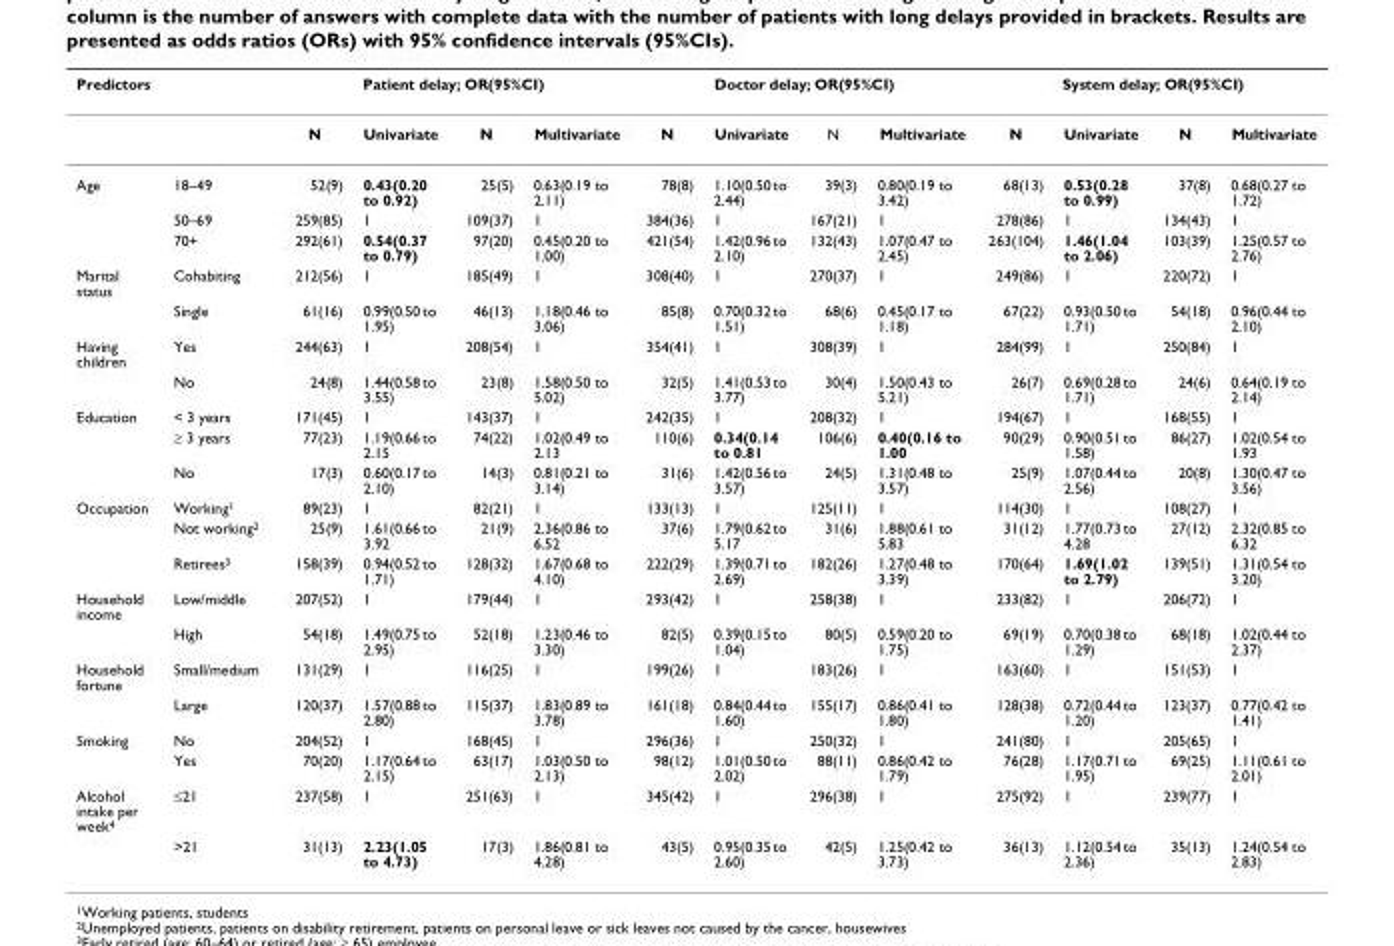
<table><thead><tr><td colspan="2">Predictors</td><td colspan="4">Patient delay; OR(95%CI)</td><td colspan="4">Doctor delay; OR(95%CI)</td><td colspan="4">System delay; OR(95%CI)</td></tr><tr><td></td><td></td><td>N</td><td>Univariate</td><td>N</td><td>Multivariate</td><td>N</td><td>Univariate</td><td>N</td><td>Multivariate</td><td>N</td><td>Univariate</td><td>N</td><td>Multivariate</td></tr></thead><tbody><tr><td rowspan="3">Age</td><td>18–49</td><td>52(9)</td><td>0.43(0.20 to 0.92)</td><td>25(5)</td><td>0.63(0.19 to 2.11)</td><td>78(8)</td><td>1.10(0.50 to 2.44)</td><td>39(3)</td><td>0.80(0.19 to 3.42)</td><td>68(13)</td><td>0.53(0.28 to 0.99)</td><td>37(8)</td><td>0.68(0.27 to 1.72)</td></tr><tr><td>50–69</td><td>259(85)</td><td>1</td><td>109(37)</td><td>1</td><td>384(36)</td><td>1</td><td>167(21)</td><td>1</td><td>278(86)</td><td>1</td><td>134(43)</td><td>1</td></tr><tr><td>70+</td><td>292(61)</td><td>0.54(0.37 to 0.79)</td><td>97(20)</td><td>0.45(0.20 to 1.00)</td><td>421(54)</td><td>1.42(0.96 to 2.10)</td><td>132(43)</td><td>1.07(0.47 to 2.45)</td><td>263(104)</td><td>1.46(1.04 to 2.06)</td><td>103(39)</td><td>1.25(0.57 to 2.76)</td></tr><tr><td rowspan="2">Marital status</td><td>Cohabiting</td><td>212(56)</td><td>1</td><td>185(49)</td><td>1</td><td>308(40)</td><td>1</td><td>270(37)</td><td>1</td><td>249(86)</td><td>1</td><td>220(72)</td><td>1</td></tr><tr><td>Single</td><td>61(16)</td><td>0.99(0.50 to 1.95)</td><td>46(13)</td><td>1.18(0.46 to 3.06)</td><td>85(8)</td><td>0.70(0.32 to 1.51)</td><td>68(6)</td><td>0.45(0.17 to 1.18)</td><td>67(22)</td><td>0.93(0.50 to 1.71)</td><td>54(18)</td><td>0.96(0.44 to 2.10)</td></tr><tr><td rowspan="2">Having children</td><td>Yes</td><td>244(63)</td><td>1</td><td>208(54)</td><td>1</td><td>354(41)</td><td>1</td><td>308(39)</td><td>1</td><td>284(99)</td><td>1</td><td>250(84)</td><td>1</td></tr><tr><td>No</td><td>24(8)</td><td>1.44(0.58 to 3.55)</td><td>23(8)</td><td>1.58(0.50 to 5.02)</td><td>32(5)</td><td>1.41(0.53 to 3.77)</td><td>30(4)</td><td>1.50(0.43 to 5.21)</td><td>26(7)</td><td>0.69(0.28 to 1.71)</td><td>24(6)</td><td>0.64(0.19 to 2.14)</td></tr><tr><td rowspan="3">Education</td><td>&lt; 3 years</td><td>171(45)</td><td>1</td><td>143(37)</td><td>1</td><td>242(35)</td><td>1</td><td>208(32)</td><td>1</td><td>194(67)</td><td>1</td><td>168(55)</td><td>1</td></tr><tr><td>≥ 3 years</td><td>77(23)</td><td>1.19(0.66 to 2.15</td><td>74(22)</td><td>1.02(0.49 to 2.13</td><td>110(6)</td><td>0.34(0.14 to 0.81</td><td>106(6)</td><td>0.40(0.16 to 1.00</td><td>90(29)</td><td>0.90(0.51 to 1.58)</td><td>86(27)</td><td>1.02(0.54 to 1.93</td></tr><tr><td>No</td><td>17(3)</td><td>0.60(0.17 to 2.10)</td><td>14(3)</td><td>0.81(0.21 to 3.14)</td><td>31(6)</td><td>1.42(0.56 to 3.57)</td><td>24(5)</td><td>1.31(0.48 to 3.57)</td><td>25(9)</td><td>1.07(0.44 to 2.56)</td><td>20(8)</td><td>1.30(0.47 to 3.56)</td></tr><tr><td rowspan="3">Occupation</td><td>Working<sup>1</sup></td><td>89(23)</td><td>1</td><td>82(21)</td><td>1</td><td>133(13)</td><td>1</td><td>125(11)</td><td>1</td><td>114(30)</td><td>1</td><td>108(27)</td><td>1</td></tr><tr><td>Not working<sup>2</sup></td><td>25(9)</td><td>1.61(0.66 to 3.92</td><td>21(9)</td><td>2.36(0.86 to 6.52</td><td>37(6)</td><td>1.79(0.62 to 5.17</td><td>31(6)</td><td>1.88(0.61 to 5.83</td><td>31(12)</td><td>1.77(0.73 to 4.28</td><td>27(12)</td><td>2.32(0.85 to 6.32</td></tr><tr><td>Retirees<sup>3</sup></td><td>158(39)</td><td>0.94(0.52 to 1.71)</td><td>128(32)</td><td>1.67(0.68 to 4.10)</td><td>222(29)</td><td>1.39(0.71 to 2.69)</td><td>182(26)</td><td>1.27(0.48 to 3.39)</td><td>170(64)</td><td>1.69(1.02 to 2.79)</td><td>139(51)</td><td>1.31(0.54 to 3.20)</td></tr><tr><td rowspan="2">Household income</td><td>Low/middle</td><td>207(52)</td><td>1</td><td>179(44)</td><td>1</td><td>293(42)</td><td>1</td><td>258(38)</td><td>1</td><td>233(82)</td><td>1</td><td>206(72)</td><td>1</td></tr><tr><td>High</td><td>54(18)</td><td>1.49(0.75 to 2.95)</td><td>52(18)</td><td>1.23(0.46 to 3.30)</td><td>82(5)</td><td>0.39(0.15 to 1.04)</td><td>80(5)</td><td>0.59(0.20 to 1.75)</td><td>69(19)</td><td>0.70(0.38 to 1.29)</td><td>68(18)</td><td>1.02(0.44 to 2.37)</td></tr><tr><td rowspan="2">Household fortune</td><td>Small/medium</td><td>131(29)</td><td>1</td><td>116(25)</td><td>1</td><td>199(26)</td><td>1</td><td>183(26)</td><td>1</td><td>163(60)</td><td>1</td><td>151(53)</td><td>1</td></tr><tr><td>Large</td><td>120(37)</td><td>1.57(0.88 to 2.80)</td><td>115(37)</td><td>1.83(0.89 to 3.78)</td><td>161(18)</td><td>0.84(0.44 to 1.60)</td><td>155(17)</td><td>0.86(0.41 to 1.80)</td><td>128(38)</td><td>0.72(0.44 to 1.20)</td><td>123(37)</td><td>0.77(0.42 to 1.41)</td></tr><tr><td rowspan="2">Smoking</td><td>No</td><td>204(52)</td><td>1</td><td>168(45)</td><td>1</td><td>296(36)</td><td>1</td><td>250(32)</td><td>1</td><td>241(80)</td><td>1</td><td>205(65)</td><td>1</td></tr><tr><td>Yes</td><td>70(20)</td><td>1.17(0.64 to 2.15)</td><td>63(17)</td><td>1.03(0.50 to 2.13)</td><td>98(12)</td><td>1.01(0.50 to 2.02)</td><td>88(11)</td><td>0.86(0.42 to 1.79)</td><td>76(28)</td><td>1.17(0.71 to 1.95)</td><td>69(25)</td><td>1.11(0.61 to 2.01)</td></tr><tr><td rowspan="2">Alcohol intake per week<sup>4</sup></td><td>≤21</td><td>237(58)</td><td>1</td><td>251(63)</td><td>1</td><td>345(42)</td><td>1</td><td>296(38)</td><td>1</td><td>275(92)</td><td>1</td><td>239(77)</td><td>1</td></tr><tr><td>&gt;21</td><td>31(13)</td><td>2.23(1.05 to 4.73)</td><td>17(3)</td><td>1.86(0.81 to 4.28)</td><td>43(5)</td><td>0.95(0.35 to 2.60)</td><td>42(5)</td><td>1.25(0.42 to 3.73)</td><td>36(13)</td><td>1.12(0.54 to 2.36)</td><td>35(13)</td><td>1.24(0.54 to 2.83)</td></tr></tbody></table>